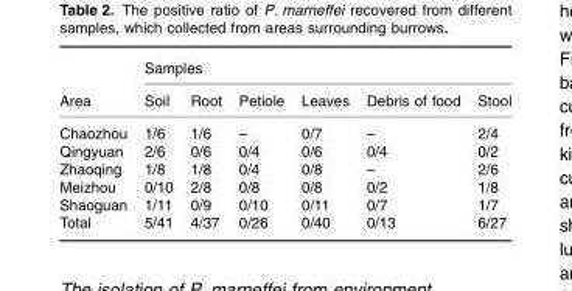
<table><thead><tr><td rowspan="2">Area</td><td colspan="6">Samples</td></tr><tr><td>Soil</td><td>Root</td><td>Petiole</td><td>Leaves</td><td>Debris of food</td><td>Stool</td></tr></thead><tbody><tr><td>Chaozhou</td><td>1/6</td><td>1/6</td><td>–</td><td>0/7</td><td>–</td><td>2/4</td></tr><tr><td>Qingyuan</td><td>2/6</td><td>0/6</td><td>0/4</td><td>0/6</td><td>0/4</td><td>0/2</td></tr><tr><td>Zhaoqing</td><td>1/8</td><td>1/8</td><td>0/4</td><td>0/8</td><td>–</td><td>2/6</td></tr><tr><td>Meizhou</td><td>0/10</td><td>2/8</td><td>0/8</td><td>0/8</td><td>0/2</td><td>1/8</td></tr><tr><td>Shaoguan</td><td>1/11</td><td>0/9</td><td>0/10</td><td>0/11</td><td>0/7</td><td>1/7</td></tr><tr><td>Total</td><td>5/41</td><td>4/37</td><td>0/26</td><td>0/40</td><td>0/13</td><td>6/27</td></tr></tbody></table>